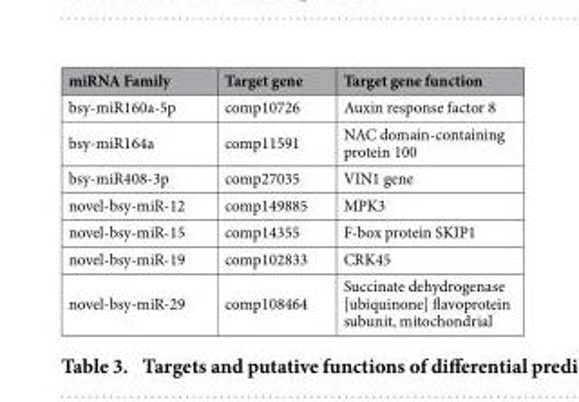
<table><thead><tr><td>miRNA Family</td><td>Target gene</td><td>Target gene function</td></tr></thead><tbody><tr><td>bsy-miR160a-5p</td><td>comp10726</td><td>Auxin response factor 8</td></tr><tr><td>bsy-miR164a</td><td>comp11591</td><td>NAC domain-containing protein 100</td></tr><tr><td>bsy-miR408-3p</td><td>comp27035</td><td>VIN1 gene</td></tr><tr><td>novel-bsy-miR-12</td><td>comp149885</td><td>MPK3</td></tr><tr><td>novel-bsy-miR-15</td><td>comp14355</td><td>F-box protein SKIP1</td></tr><tr><td>novel-bsy-miR-19</td><td>comp102833</td><td>CRK45</td></tr><tr><td>novel-bsy-miR-29</td><td>comp108464</td><td>Succinate dehydrogenase [ubiquinone] flavoprotein subunit, mitochondrial</td></tr></tbody></table>